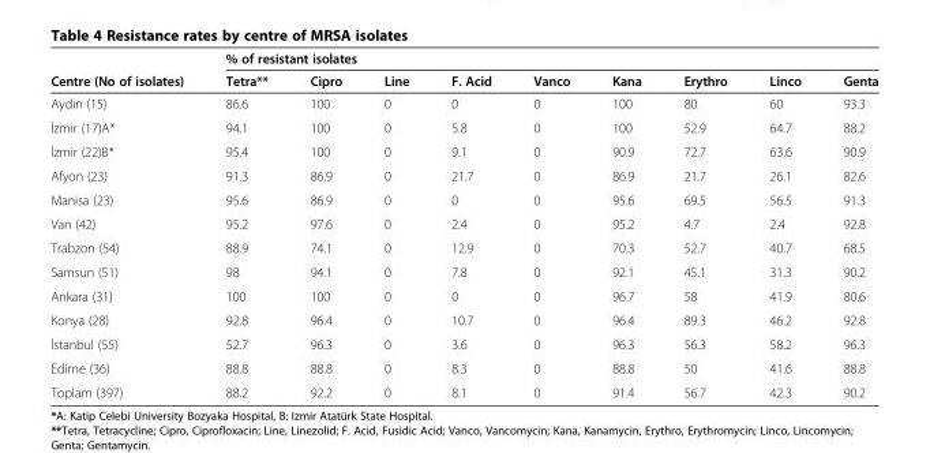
<table><thead><tr><td rowspan="2">Centre (No of isolates)</td><td colspan="9">% of resistant isolates</td></tr><tr><td>Tetra**</td><td>Cipro</td><td>Line</td><td>F. Acid</td><td>Vanco</td><td>Kana</td><td>Erythro</td><td>Linco</td><td>Genta</td></tr></thead><tbody><tr><td>Aydın (15)</td><td>86.6</td><td>100</td><td>0</td><td>0</td><td>0</td><td>100</td><td>80</td><td>60</td><td>93.3</td></tr><tr><td>İzmir (17)A*</td><td>94.1</td><td>100</td><td>0</td><td>5.8</td><td>0</td><td>100</td><td>52.9</td><td>64.7</td><td>88.2</td></tr><tr><td>İzmir (22)B*</td><td>95.4</td><td>100</td><td>0</td><td>9.1</td><td>0</td><td>90.9</td><td>72.7</td><td>63.6</td><td>90.9</td></tr><tr><td>Afyon (23)</td><td>91.3</td><td>86.9</td><td>0</td><td>21.7</td><td>0</td><td>86.9</td><td>21.7</td><td>26.1</td><td>82.6</td></tr><tr><td>Manisa (23)</td><td>95.6</td><td>86.9</td><td>0</td><td>0</td><td>0</td><td>95.6</td><td>69.5</td><td>56.5</td><td>91.3</td></tr><tr><td>Van (42)</td><td>95.2</td><td>97.6</td><td>0</td><td>2.4</td><td>0</td><td>95.2</td><td>4.7</td><td>2.4</td><td>92.8</td></tr><tr><td>Trabzon (54)</td><td>88.9</td><td>74.1</td><td>0</td><td>12.9</td><td>0</td><td>70.3</td><td>52.7</td><td>40.7</td><td>68.5</td></tr><tr><td>Samsun (51)</td><td>98</td><td>94.1</td><td>0</td><td>7.8</td><td>0</td><td>92.1</td><td>45.1</td><td>31.3</td><td>90.2</td></tr><tr><td>Ankara (31)</td><td>100</td><td>100</td><td>0</td><td>0</td><td>0</td><td>96.7</td><td>58</td><td>41.9</td><td>80.6</td></tr><tr><td>Konya (28)</td><td>92.8</td><td>96.4</td><td>0</td><td>10.7</td><td>0</td><td>96.4</td><td>89.3</td><td>46.2</td><td>92.8</td></tr><tr><td>İstanbul (55)</td><td>52.7</td><td>96.3</td><td>0</td><td>3.6</td><td>0</td><td>96.3</td><td>56.3</td><td>58.2</td><td>96.3</td></tr><tr><td>Edirne (36)</td><td>88.8</td><td>88.8</td><td>0</td><td>8.3</td><td>0</td><td>88.8</td><td>50</td><td>41.6</td><td>88.8</td></tr><tr><td>Toplam (397)</td><td>88.2</td><td>92.2</td><td>0</td><td>8.1</td><td>0</td><td>91.4</td><td>56.7</td><td>42.3</td><td>90.2</td></tr></tbody></table>